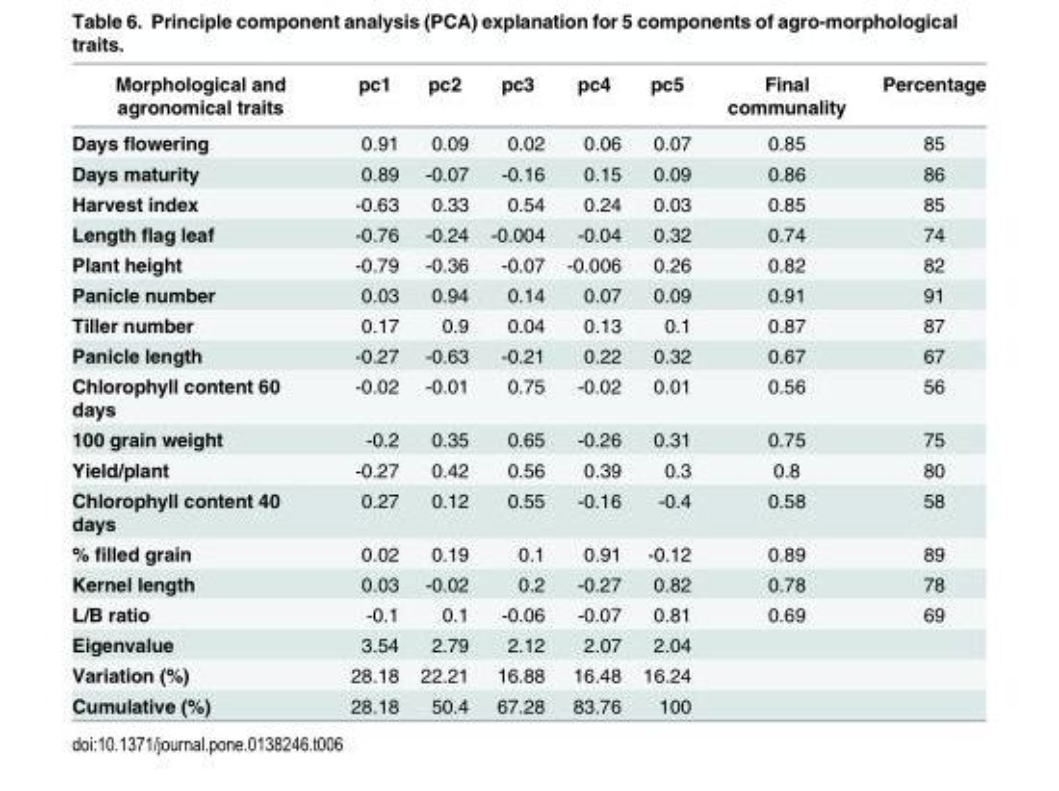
<table><thead><tr><td>Morphological and agronomical traits</td><td>pc1</td><td>pc2</td><td>pc3</td><td>pc4</td><td>pc5</td><td>Final communality</td><td>Percentage</td></tr></thead><tbody><tr><td>Days flowering</td><td>0.91</td><td>0.09</td><td>0.02</td><td>0.06</td><td>0.07</td><td>0.85</td><td>85</td></tr><tr><td>Days maturity</td><td>0.89</td><td>-0.07</td><td>-0.16</td><td>0.15</td><td>0.09</td><td>0.86</td><td>86</td></tr><tr><td>Harvest index</td><td>-0.63</td><td>0.33</td><td>0.54</td><td>0.24</td><td>0.03</td><td>0.85</td><td>85</td></tr><tr><td>Length flag leaf</td><td>-0.76</td><td>-0.24</td><td>-0.004</td><td>-0.04</td><td>0.32</td><td>0.74</td><td>74</td></tr><tr><td>Plant height</td><td>-0.79</td><td>-0.36</td><td>-0.07</td><td>-0.006</td><td>0.26</td><td>0.82</td><td>82</td></tr><tr><td>Panicle number</td><td>0.03</td><td>0.94</td><td>0.14</td><td>0.07</td><td>0.09</td><td>0.91</td><td>91</td></tr><tr><td>Tiller number</td><td>0.17</td><td>0.9</td><td>0.04</td><td>0.13</td><td>0.1</td><td>0.87</td><td>87</td></tr><tr><td>Panicle length</td><td>-0.27</td><td>-0.63</td><td>-0.21</td><td>0.22</td><td>0.32</td><td>0.67</td><td>67</td></tr><tr><td>Chlorophyll content 60 days</td><td>-0.02</td><td>-0.01</td><td>0.75</td><td>-0.02</td><td>0.01</td><td>0.56</td><td>56</td></tr><tr><td>100 grain weight</td><td>-0.2</td><td>0.35</td><td>0.65</td><td>-0.26</td><td>0.31</td><td>0.75</td><td>75</td></tr><tr><td>Yield/plant</td><td>-0.27</td><td>0.42</td><td>0.56</td><td>0.39</td><td>0.3</td><td>0.8</td><td>80</td></tr><tr><td>Chlorophyll content 40 days</td><td>0.27</td><td>0.12</td><td>0.55</td><td>-0.16</td><td>-0.4</td><td>0.58</td><td>58</td></tr><tr><td>% filled grain</td><td>0.02</td><td>0.19</td><td>0.1</td><td>0.91</td><td>-0.12</td><td>0.89</td><td>89</td></tr><tr><td>Kernel length</td><td>0.03</td><td>-0.02</td><td>0.2</td><td>-0.27</td><td>0.82</td><td>0.78</td><td>78</td></tr><tr><td>L/B ratio</td><td>-0.1</td><td>0.1</td><td>-0.06</td><td>-0.07</td><td>0.81</td><td>0.69</td><td>69</td></tr><tr><td>Eigenvalue</td><td>3.54</td><td>2.79</td><td>2.12</td><td>2.07</td><td>2.04</td><td></td><td></td></tr><tr><td>Variation (%)</td><td>28.18</td><td>22.21</td><td>16.88</td><td>16.48</td><td>16.24</td><td></td><td></td></tr><tr><td>Cumulative (%)</td><td>28.18</td><td>50.4</td><td>67.28</td><td>83.76</td><td>100</td><td></td><td></td></tr></tbody></table>